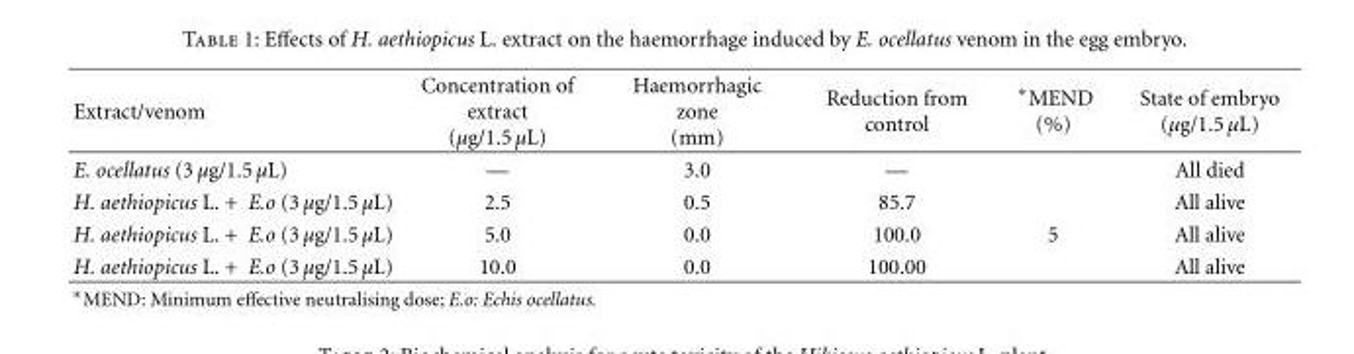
<table><thead><tr><td>Extract/venom</td><td>Concentration of extract (μg/1.5 μL)</td><td>Haemorrhagic zone (mm)</td><td>Reduction from control</td><td>∗MEND (%)</td><td>State of embryo (μg/1.5 μL)</td></tr></thead><tbody><tr><td>E. ocellatus (3 μg/1.5 μL)</td><td>—</td><td>3.0</td><td>—</td><td></td><td>All died</td></tr><tr><td>H. aethiopicus L. + E.o (3 μg/1.5 μL)</td><td>2.5</td><td>0.5</td><td>85.7</td><td></td><td>All alive</td></tr><tr><td>H. aethiopicus L. + E.o (3 μg/1.5 μL)</td><td>5.0</td><td>0.0</td><td>100.0</td><td>5</td><td>All alive</td></tr><tr><td>H. aethiopicus L. + E.o (3 μg/1.5 μL)</td><td>10.0</td><td>0.0</td><td>100.00</td><td></td><td>All alive</td></tr></tbody></table>